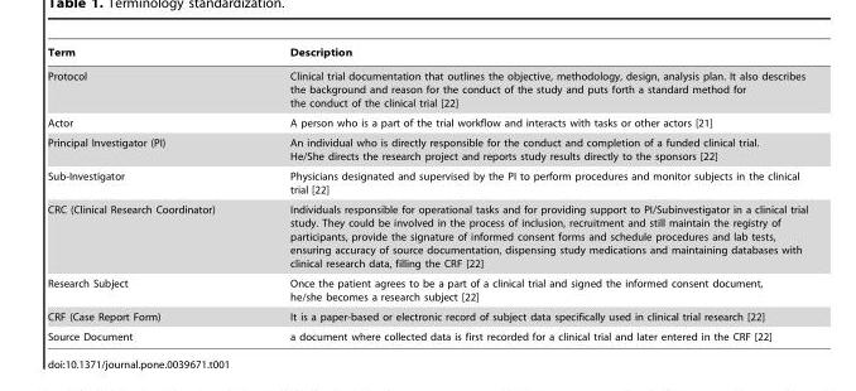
<table><thead><tr><td>Term</td><td>Description</td></tr></thead><tbody><tr><td>Protocol</td><td>Clinical trial documentation that outlines the objective, methodology, design, analysis plan. It also describes the background and reason for the conduct of the study and puts forth a standard method for the conduct of the clinical trial [22]</td></tr><tr><td>Actor</td><td>A person who is a part of the trial workflow and interacts with tasks or other actors [21]</td></tr><tr><td>Principal Investigator (PI)</td><td>An individual who is directly responsible for the conduct and completion of a funded clinical trial. He/She directs the research project and reports study results directly to the sponsors [22]</td></tr><tr><td>Sub-Investigator</td><td>Physicians designated and supervised by the PI to perform procedures and monitor subjects in the clinical trial [22]</td></tr><tr><td>CRC (Clinical Research Coordinator)</td><td>Individuals responsible for operational tasks and for providing support to PI/Subinvestigator in a clinical trial study. They could be involved in the process of inclusion, recruitment and still maintain the registry of participants, provide the signature of informed consent forms and schedule procedures and lab tests, ensuring accuracy of source documentation, dispensing study medications and maintaining databases with clinical research data, filling the CRF [22]</td></tr><tr><td>Research Subject</td><td>Once the patient agrees to be a part of a clinical trial and signed the informed consent document, he/she becomes a research subject [22]</td></tr><tr><td>CRF (Case Report Form)</td><td>It is a paper-based or electronic record of subject data specifically used in clinical trial research [22]</td></tr><tr><td>Source Document</td><td>a document where collected data is first recorded for a clinical trial and later entered in the CRF [22]</td></tr></tbody></table>